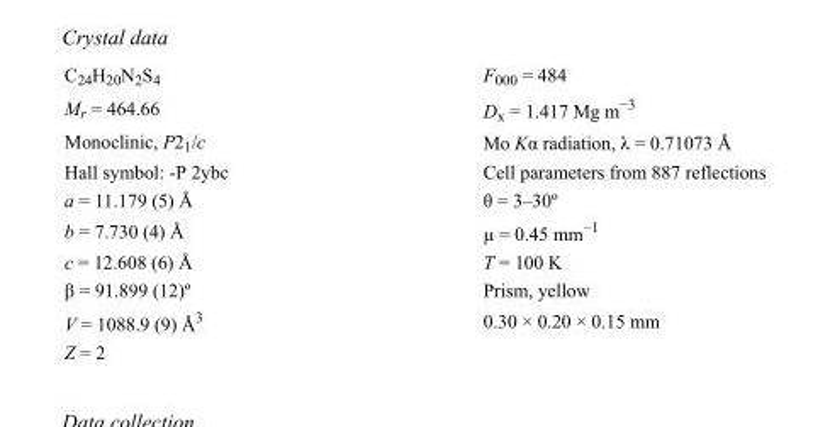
<table><tbody><tr><td>C<sub>24</sub>H<sub>20</sub>N<sub>2</sub>S<sub>4</sub></td><td>F000 = 484</td></tr><tr><td>M<sub>r</sub> = 464.66</td><td>D<sub>x</sub> = 1.417 Mg m<sup>−3</sup></td></tr><tr><td>Monoclinic, P2<sub>1</sub>/c</td><td>Mo Kα radiation, λ = 0.71073 Å</td></tr><tr><td>Hall symbol: -P 2ybc</td><td>Cell parameters from 887 reflections</td></tr><tr><td>a = 11.179 (5) Å</td><td>θ = 3–30º</td></tr><tr><td>b = 7.730 (4) Å</td><td>µ = 0.45 mm<sup>−1</sup></td></tr><tr><td>c = 12.608 (6) Å</td><td>T = 100 K</td></tr><tr><td>β = 91.899 (12)º</td><td>Prism, yellow</td></tr><tr><td>V = 1088.9 (9) Å<sup>3</sup></td><td>0.30 × 0.20 × 0.15 mm</td></tr><tr><td>Z = 2</td><td></td></tr></tbody></table>